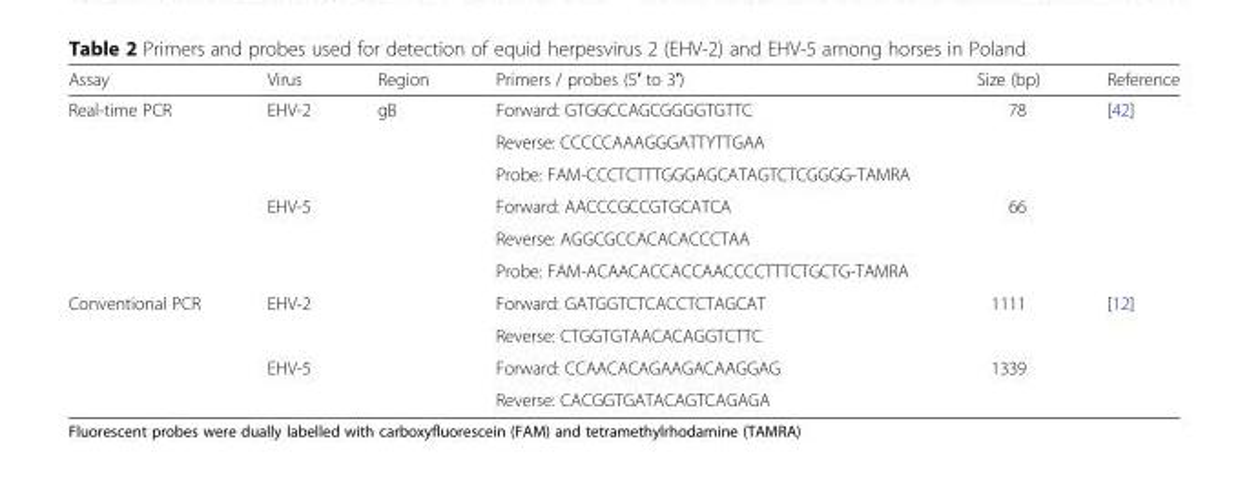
<table><thead><tr><td>Assay</td><td>Virus</td><td>Region</td><td>Primers / probes (5′ to 3′)</td><td>Size (bp)</td><td>Reference</td></tr></thead><tbody><tr><td rowspan="6">Real-time PCR</td><td>EHV-2</td><td>gB</td><td>Forward: GTGGCCAGCGGGGTGTTC</td><td>78</td><td>[42]</td></tr><tr><td></td><td></td><td>Reverse: CCCCCAAAGGGATTYTTGAA</td><td></td><td></td></tr><tr><td></td><td></td><td>Probe: FAM-CCCTCTTTGGGAGCATAGTCTCGGGG-TAMRA</td><td></td><td></td></tr><tr><td>EHV-5</td><td></td><td>Forward: AACCCGCCGTGCATCA</td><td>66</td><td></td></tr><tr><td></td><td></td><td>Reverse: AGGCGCCACACACCCTAA</td><td></td><td></td></tr><tr><td></td><td></td><td>Probe: FAM-ACAACACCACCAACCCCTTTCTGCTG-TAMRA</td><td></td><td></td></tr><tr><td rowspan="4">Conventional PCR</td><td>EHV-2</td><td></td><td>Forward: GATGGTCTCACCTCTAGCAT</td><td>1111</td><td>[12]</td></tr><tr><td></td><td></td><td>Reverse: CTGGTGTAACACAGGTCTTC</td><td></td><td></td></tr><tr><td>EHV-5</td><td></td><td>Forward: CCAACACAGAAGACAAGGAG</td><td>1339</td><td></td></tr><tr><td></td><td></td><td>Reverse: CACGGTGATACAGTCAGAGA</td><td></td><td></td></tr></tbody></table>